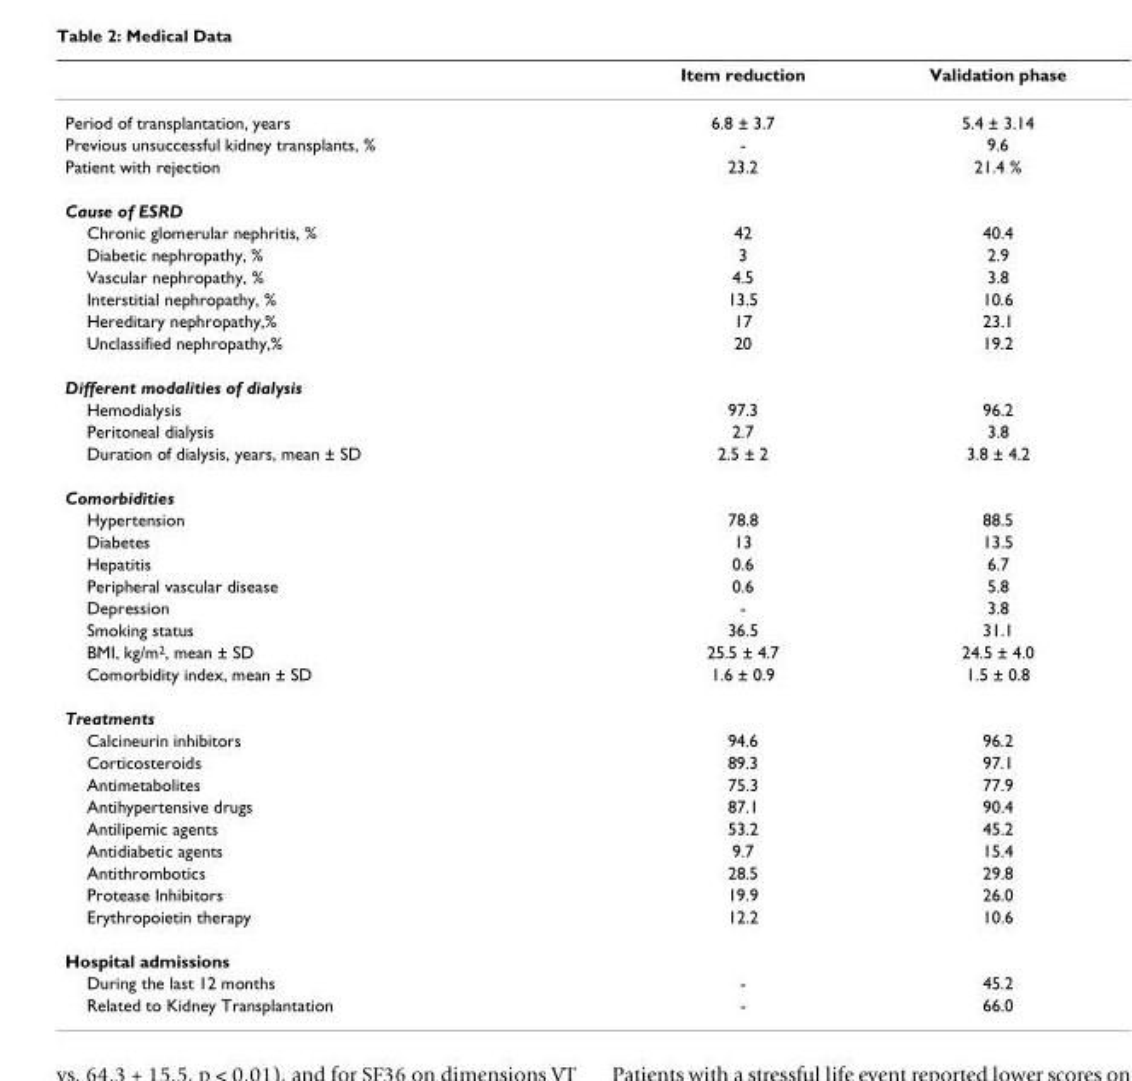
<table><thead><tr><td></td><td>Item reduction</td><td>Validation phase</td></tr></thead><tbody><tr><td>Period of transplantation, years</td><td>6.8 ± 3.7</td><td>5.4 ± 3.14</td></tr><tr><td>Previous unsuccessful kidney transplants, %</td><td>-</td><td>9.6</td></tr><tr><td>Patient with rejection</td><td>23.2</td><td>21.4 %</td></tr><tr><td colspan="3">Cause of ESRD</td></tr><tr><td>Chronic glomerular nephritis, %</td><td>42</td><td>40.4</td></tr><tr><td>Diabetic nephropathy, %</td><td>3</td><td>2.9</td></tr><tr><td>Vascular nephropathy, %</td><td>4.5</td><td>3.8</td></tr><tr><td>Interstitial nephropathy, %</td><td>13.5</td><td>10.6</td></tr><tr><td>Hereditary nephropathy,%</td><td>17</td><td>23.1</td></tr><tr><td>Unclassified nephropathy,%</td><td>20</td><td>19.2</td></tr><tr><td colspan="3">Different modalities of dialysis</td></tr><tr><td>Hemodialysis</td><td>97.3</td><td>96.2</td></tr><tr><td>Peritoneal dialysis</td><td>2.7</td><td>3.8</td></tr><tr><td>Duration of dialysis, years, mean ± SD</td><td>2.5 ± 2</td><td>3.8 ± 4.2</td></tr><tr><td colspan="3">Comorbidities</td></tr><tr><td>Hypertension</td><td>78.8</td><td>88.5</td></tr><tr><td>Diabetes</td><td>13</td><td>13.5</td></tr><tr><td>Hepatitis</td><td>0.6</td><td>6.7</td></tr><tr><td>Peripheral vascular disease</td><td>0.6</td><td>5.8</td></tr><tr><td>Depression</td><td>-</td><td>3.8</td></tr><tr><td>Smoking status</td><td>36.5</td><td>31.1</td></tr><tr><td>BMI, kg/m<sup>2</sup>, mean ± SD</td><td>25.5 ± 4.7</td><td>24.5 ± 4.0</td></tr><tr><td>Comorbidity index, mean ± SD</td><td>1.6 ± 0.9</td><td>1.5 ± 0.8</td></tr><tr><td colspan="3">Treatments</td></tr><tr><td>Calcineurin inhibitors</td><td>94.6</td><td>96.2</td></tr><tr><td>Corticosteroids</td><td>89.3</td><td>97.1</td></tr><tr><td>Antimetabolites</td><td>75.3</td><td>77.9</td></tr><tr><td>Antihypertensive drugs</td><td>87.1</td><td>90.4</td></tr><tr><td>Antilipemic agents</td><td>53.2</td><td>45.2</td></tr><tr><td>Antidiabetic agents</td><td>9.7</td><td>15.4</td></tr><tr><td>Antithrombotics</td><td>28.5</td><td>29.8</td></tr><tr><td>Protease Inhibitors</td><td>19.9</td><td>26.0</td></tr><tr><td>Erythropoietin therapy</td><td>12.2</td><td>10.6</td></tr><tr><td colspan="3">Hospital admissions</td></tr><tr><td>During the last 12 months</td><td>-</td><td>45.2</td></tr><tr><td>Related to Kidney Transplantation</td><td>-</td><td>66.0</td></tr></tbody></table>